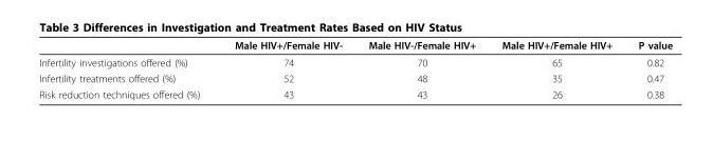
<table><thead><tr><td></td><td>Male HIV+/Female HIV-</td><td>Male HIV-/Female HIV+</td><td>Male HIV+/Female HIV+</td><td>P value</td></tr></thead><tbody><tr><td>Infertility investigations offered (%)</td><td>74</td><td>70</td><td>65</td><td>0.82</td></tr><tr><td>Infertility treatments offered (%)</td><td>52</td><td>48</td><td>35</td><td>0.47</td></tr><tr><td>Risk reduction techniques offered (%)</td><td>43</td><td>43</td><td>26</td><td>0.38</td></tr></tbody></table>